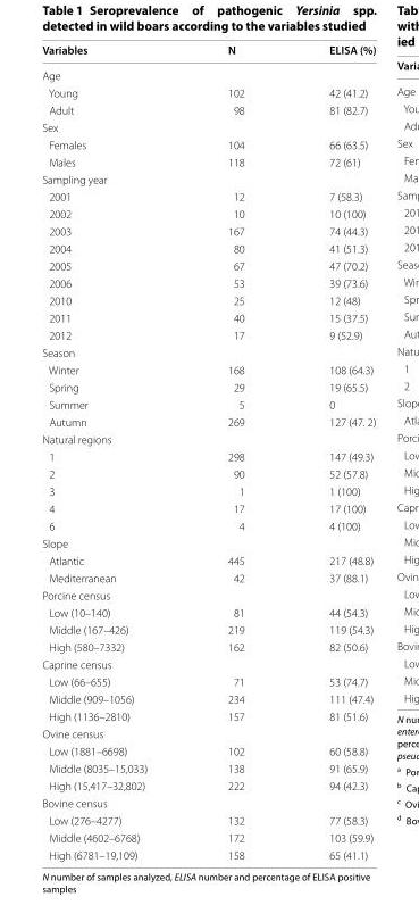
<table><thead><tr><td>Variables</td><td>N</td><td>ELISA (%)</td></tr></thead><tbody><tr><td colspan="3">Age</td></tr><tr><td>Young</td><td>102</td><td>42 (41.2)</td></tr><tr><td>Adult</td><td>98</td><td>81 (82.7)</td></tr><tr><td colspan="3">Sex</td></tr><tr><td>Females</td><td>104</td><td>66 (63.5)</td></tr><tr><td>Males</td><td>118</td><td>72 (61)</td></tr><tr><td colspan="3">Sampling year</td></tr><tr><td>2001</td><td>12</td><td>7 (58.3)</td></tr><tr><td>2002</td><td>10</td><td>10 (100)</td></tr><tr><td>2003</td><td>167</td><td>74 (44.3)</td></tr><tr><td>2004</td><td>80</td><td>41 (51.3)</td></tr><tr><td>2005</td><td>67</td><td>47 (70.2)</td></tr><tr><td>2006</td><td>53</td><td>39 (73.6)</td></tr><tr><td>2010</td><td>25</td><td>12 (48)</td></tr><tr><td>2011</td><td>40</td><td>15 (37.5)</td></tr><tr><td>2012</td><td>17</td><td>9 (52.9)</td></tr><tr><td colspan="3">Season</td></tr><tr><td>Winter</td><td>168</td><td>108 (64.3)</td></tr><tr><td>Spring</td><td>29</td><td>19 (65.5)</td></tr><tr><td>Summer</td><td>5</td><td>0</td></tr><tr><td>Autumn</td><td>269</td><td>127 (47. 2)</td></tr><tr><td colspan="3">Natural regions</td></tr><tr><td>1</td><td>298</td><td>147 (49.3)</td></tr><tr><td>2</td><td>90</td><td>52 (57.8)</td></tr><tr><td>3</td><td>1</td><td>1 (100)</td></tr><tr><td>4</td><td>17</td><td>17 (100)</td></tr><tr><td>6</td><td>4</td><td>4 (100)</td></tr><tr><td colspan="3">Slope</td></tr><tr><td>Atlantic</td><td>445</td><td>217 (48.8)</td></tr><tr><td>Mediterranean</td><td>42</td><td>37 (88.1)</td></tr><tr><td colspan="3">Porcine census</td></tr><tr><td>Low (10–140)</td><td>81</td><td>44 (54.3)</td></tr><tr><td>Middle (167–426)</td><td>219</td><td>119 (54.3)</td></tr><tr><td>High (580–7332)</td><td>162</td><td>82 (50.6)</td></tr><tr><td colspan="3">Caprine census</td></tr><tr><td>Low (66–655)</td><td>71</td><td>53 (74.7)</td></tr><tr><td>Middle (909–1056)</td><td>234</td><td>111 (47.4)</td></tr><tr><td>High (1136–2810)</td><td>157</td><td>81 (51.6)</td></tr><tr><td colspan="3">Ovine census</td></tr><tr><td>Low (1881–6698)</td><td>102</td><td>60 (58.8)</td></tr><tr><td>Middle (8035–15,033)</td><td>138</td><td>91 (65.9)</td></tr><tr><td>High (15,417–32,802)</td><td>222</td><td>94 (42.3)</td></tr><tr><td colspan="3">Bovine census</td></tr><tr><td>Low (276–4277)</td><td>132</td><td>77 (58.3)</td></tr><tr><td>Middle (4602–6768)</td><td>172</td><td>103 (59.9)</td></tr><tr><td>High (6781–19,109)</td><td>158</td><td>65 (41.1)</td></tr></tbody></table>